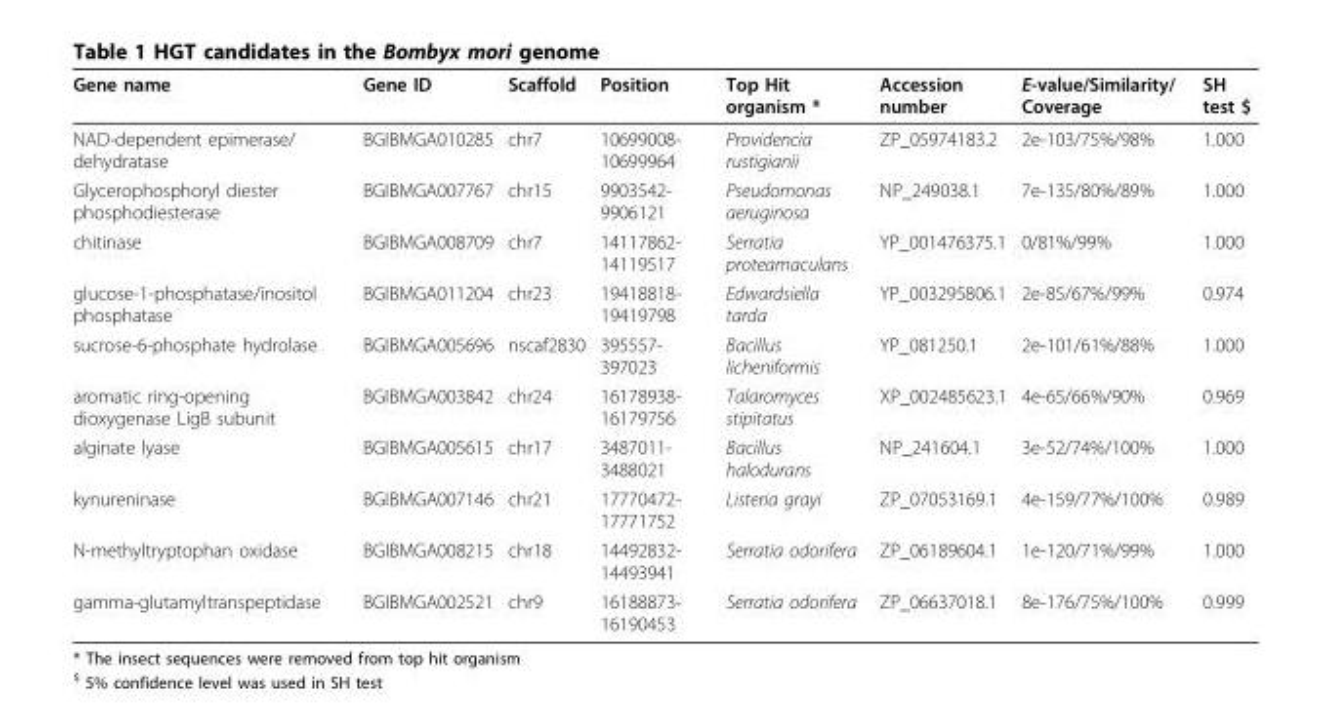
<table><thead><tr><td>Gene name</td><td>Gene ID</td><td>Scaffold</td><td>Position</td><td>Top Hit organism *</td><td>Accession number</td><td>E-value/Similarity/ Coverage</td><td>SH test $</td></tr></thead><tbody><tr><td>NAD-dependent epimerase/ dehydratase</td><td>BGIBMGA010285</td><td>chr7</td><td>10699008- 10699964</td><td>Providencia rustigianii</td><td>ZP_05974183.2</td><td>2e-103/75%/98%</td><td>1.000</td></tr><tr><td>Glycerophosphoryl diester phosphodiesterase</td><td>BGIBMGA007767</td><td>chr15</td><td>9903542- 9906121</td><td>Pseudomonas aeruginosa</td><td>NP_249038.1</td><td>7e-135/80%/89%</td><td>1.000</td></tr><tr><td>chitinase</td><td>BGIBMGA008709</td><td>chr7</td><td>14117862- 14119517</td><td>Serratia proteamaculans</td><td>YP_001476375.1</td><td>0/81%/99%</td><td>1.000</td></tr><tr><td>glucose-1-phosphatase/inositol phosphatase</td><td>BGIBMGA011204</td><td>chr23</td><td>19418818- 19419798</td><td>Edwardsiella tarda</td><td>YP_003295806.1</td><td>2e-85/67%/99%</td><td>0.974</td></tr><tr><td>sucrose-6-phosphate hydrolase</td><td>BGIBMGA005696</td><td>nscaf2830</td><td>395557- 397023</td><td>Bacillus licheniformis</td><td>YP_081250.1</td><td>2e-101/61%/88%</td><td>1.000</td></tr><tr><td>aromatic ring-opening dioxygenase LigB subunit</td><td>BGIBMGA003842</td><td>chr24</td><td>16178938- 16179756</td><td>Talaromyces stipitatus</td><td>XP_002485623.1</td><td>4e-65/66%/90%</td><td>0.969</td></tr><tr><td>alginate lyase</td><td>BGIBMGA005615</td><td>chr17</td><td>3487011- 3488021</td><td>Bacillus halodurans</td><td>NP_241604.1</td><td>3e-52/74%/100%</td><td>1.000</td></tr><tr><td>kynureninase</td><td>BGIBMGA007146</td><td>chr21</td><td>17770472- 17771752</td><td>Listeria grayi</td><td>ZP_07053169.1</td><td>4e-159/77%/100%</td><td>0.989</td></tr><tr><td>N-methyltryptophan oxidase</td><td>BGIBMGA008215</td><td>chr18</td><td>14492832- 14493941</td><td>Serratia odorifera</td><td>ZP_06189604.1</td><td>1e-120/71%/99%</td><td>1.000</td></tr><tr><td>gamma-glutamyltranspeptidase</td><td>BGIBMGA002521</td><td>chr9</td><td>16188873- 16190453</td><td>Serratia odorifera</td><td>ZP_06637018.1</td><td>8e-176/75%/100%</td><td>0.999</td></tr></tbody></table>